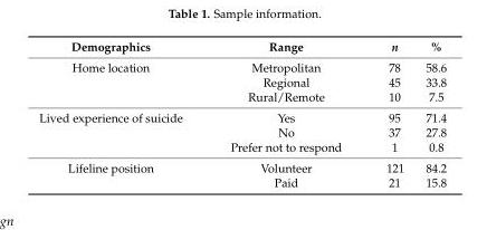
<table><thead><tr><td>Demographics</td><td>Range</td><td>n</td><td>%</td></tr></thead><tbody><tr><td rowspan="3">Home location</td><td>Metropolitan</td><td>78</td><td>58.6</td></tr><tr><td>Regional</td><td>45</td><td>33.8</td></tr><tr><td>Rural/Remote</td><td>10</td><td>7.5</td></tr><tr><td rowspan="3">Lived experience of suicide</td><td>Yes</td><td>95</td><td>71.4</td></tr><tr><td>No</td><td>37</td><td>27.8</td></tr><tr><td>Prefer not to respond</td><td>1</td><td>0.8</td></tr><tr><td rowspan="2">Lifeline position</td><td>Volunteer</td><td>121</td><td>84.2</td></tr><tr><td>Paid</td><td>21</td><td>15.8</td></tr></tbody></table>